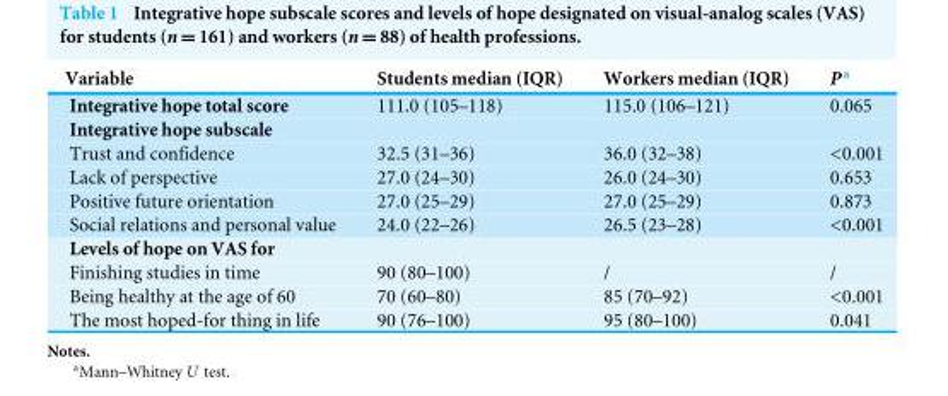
<table><thead><tr><td>Variable</td><td>Students median (IQR)</td><td>Workers median (IQR)</td><td>P<sup>a</sup></td></tr></thead><tbody><tr><td>Integrative hope total score</td><td>111.0 (105–118)</td><td>115.0 (106–121)</td><td>0.065</td></tr><tr><td colspan="4">Integrative hope subscale</td></tr><tr><td>Trust and confidence</td><td>32.5 (31–36)</td><td>36.0 (32–38)</td><td>&lt;0.001</td></tr><tr><td>Lack of perspective</td><td>27.0 (24–30)</td><td>26.0 (24–30)</td><td>0.653</td></tr><tr><td>Positive future orientation</td><td>27.0 (25–29)</td><td>27.0 (25–29)</td><td>0.873</td></tr><tr><td>Social relations and personal value</td><td>24.0 (22–26)</td><td>26.5 (23–28)</td><td>&lt;0.001</td></tr><tr><td colspan="4">Levels of hope on VAS for</td></tr><tr><td>Finishing studies in time</td><td>90 (80–100)</td><td>/</td><td>/</td></tr><tr><td>Being healthy at the age of 60</td><td>70 (60–80)</td><td>85 (70–92)</td><td>&lt;0.001</td></tr><tr><td>The most hoped-for thing in life</td><td>90 (76–100)</td><td>95 (80–100)</td><td>0.041</td></tr></tbody></table>